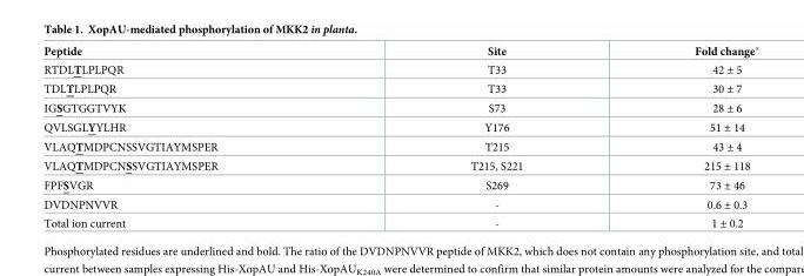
<table><thead><tr><td>Peptide</td><td>Site</td><td>Fold change*</td></tr></thead><tbody><tr><td>RTDLTLPLPQR</td><td>T33</td><td>42 ± 5</td></tr><tr><td>TDLTLPLPQR</td><td>T33</td><td>30 ± 7</td></tr><tr><td>IGSGTGGTVYK</td><td>S73</td><td>28 ± 6</td></tr><tr><td>QVLSGLYYLHR</td><td>Y176</td><td>51 ± 14</td></tr><tr><td>VLAQTMDPCNSSVGTIAYMSPER</td><td>T215</td><td>43 ± 4</td></tr><tr><td>VLAQTMDPCNSSVGTIAYMSPER</td><td>T215, S221</td><td>215 ± 118</td></tr><tr><td>FPFSVGR</td><td>S269</td><td>73 ± 46</td></tr><tr><td>DVDNPNVVR</td><td>-</td><td>0.6 ± 0.3</td></tr><tr><td>Total ion current</td><td>-</td><td>1 ± 0.2</td></tr></tbody></table>